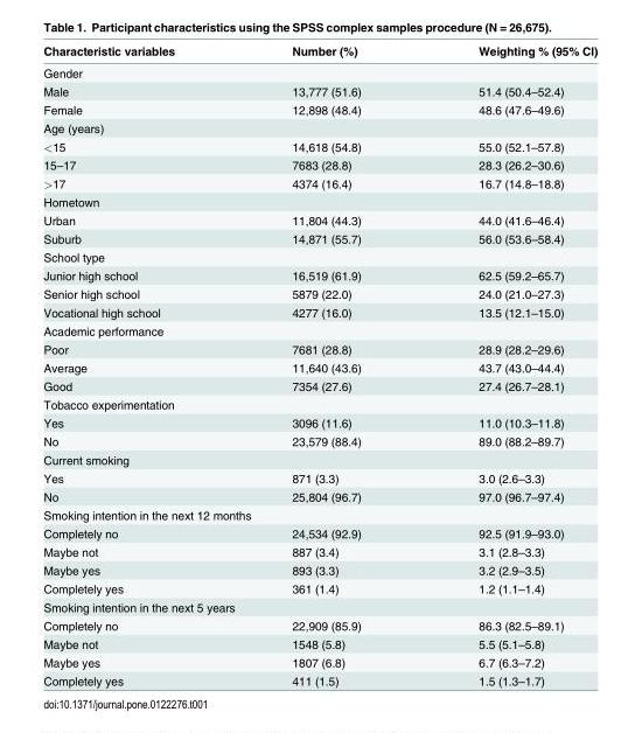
<table><thead><tr><td>Characteristic variables</td><td>Number (%)</td><td>Weighting % (95% CI)</td></tr></thead><tbody><tr><td colspan="3">Gender</td></tr><tr><td>Male</td><td>13,777 (51.6)</td><td>51.4 (50.4–52.4)</td></tr><tr><td>Female</td><td>12,898 (48.4)</td><td>48.6 (47.6–49.6)</td></tr><tr><td colspan="3">Age (years)</td></tr><tr><td>&lt;15</td><td>14,618 (54.8)</td><td>55.0 (52.1–57.8)</td></tr><tr><td>15–17</td><td>7683 (28.8)</td><td>28.3 (26.2–30.6)</td></tr><tr><td>&gt;17</td><td>4374 (16.4)</td><td>16.7 (14.8–18.8)</td></tr><tr><td colspan="3">Hometown</td></tr><tr><td>Urban</td><td>11,804 (44.3)</td><td>44.0 (41.6–46.4)</td></tr><tr><td>Suburb</td><td>14,871 (55.7)</td><td>56.0 (53.6–58.4)</td></tr><tr><td colspan="3">School type</td></tr><tr><td>Junior high school</td><td>16,519 (61.9)</td><td>62.5 (59.2–65.7)</td></tr><tr><td>Senior high school</td><td>5879 (22.0)</td><td>24.0 (21.0–27.3)</td></tr><tr><td>Vocational high school</td><td>4277 (16.0)</td><td>13.5 (12.1–15.0)</td></tr><tr><td colspan="3">Academic performance</td></tr><tr><td>Poor</td><td>7681 (28.8)</td><td>28.9 (28.2–29.6)</td></tr><tr><td>Average</td><td>11,640 (43.6)</td><td>43.7 (43.0–44.4)</td></tr><tr><td>Good</td><td>7354 (27.6)</td><td>27.4 (26.7–28.1)</td></tr><tr><td colspan="3">Tobacco experimentation</td></tr><tr><td>Yes</td><td>3096 (11.6)</td><td>11.0 (10.3–11.8)</td></tr><tr><td>No</td><td>23,579 (88.4)</td><td>89.0 (88.2–89.7)</td></tr><tr><td colspan="3">Current smoking</td></tr><tr><td>Yes</td><td>871 (3.3)</td><td>3.0 (2.6–3.3)</td></tr><tr><td>No</td><td>25,804 (96.7)</td><td>97.0 (96.7–97.4)</td></tr><tr><td colspan="3">Smoking intention in the next 12 months</td></tr><tr><td>Completely no</td><td>24,534 (92.9)</td><td>92.5 (91.9–93.0)</td></tr><tr><td>Maybe not</td><td>887 (3.4)</td><td>3.1 (2.8–3.3)</td></tr><tr><td>Maybe yes</td><td>893 (3.3)</td><td>3.2 (2.9–3.5)</td></tr><tr><td>Completely yes</td><td>361 (1.4)</td><td>1.2 (1.1–1.4)</td></tr><tr><td colspan="3">Smoking intention in the next 5 years</td></tr><tr><td>Completely no</td><td>22,909 (85.9)</td><td>86.3 (82.5–89.1)</td></tr><tr><td>Maybe not</td><td>1548 (5.8)</td><td>5.5 (5.1–5.8)</td></tr><tr><td>Maybe yes</td><td>1807 (6.8)</td><td>6.7 (6.3–7.2)</td></tr><tr><td>Completely yes</td><td>411 (1.5)</td><td>1.5 (1.3–1.7)</td></tr></tbody></table>